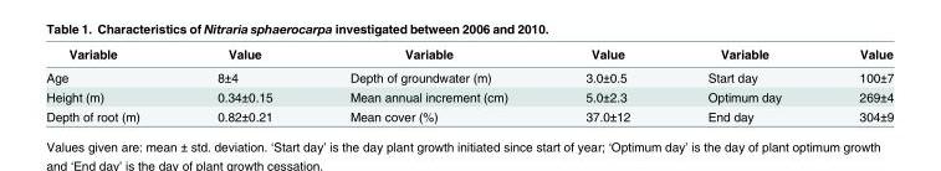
<table><thead><tr><td>Variable</td><td>Value</td><td>Variable</td><td>Value</td><td>Variable</td><td>Value</td></tr></thead><tbody><tr><td>Age</td><td>8±4</td><td>Depth of groundwater (m)</td><td>3.0±0.5</td><td>Start day</td><td>100±7</td></tr><tr><td>Height (m)</td><td>0.34±0.15</td><td>Mean annual increment (cm)</td><td>5.0±2.3</td><td>Optimum day</td><td>269±4</td></tr><tr><td>Depth of root (m)</td><td>0.82±0.21</td><td>Mean cover (%)</td><td>37.0±12</td><td>End day</td><td>304±9</td></tr></tbody></table>